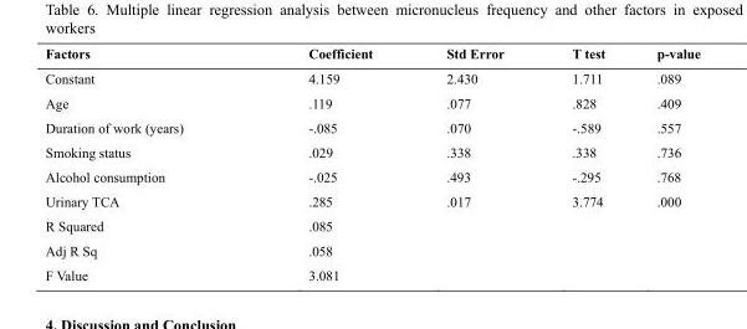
<table><thead><tr><td>Factors</td><td>Coefficient</td><td>Std Error</td><td>T test</td><td>p-value</td></tr></thead><tbody><tr><td>Constant</td><td>4.159</td><td>2.430</td><td>1.711</td><td>.089</td></tr><tr><td>Age</td><td>.119</td><td>.077</td><td>.828</td><td>.409</td></tr><tr><td>Duration of work (years)</td><td>-.085</td><td>.070</td><td>-.589</td><td>.557</td></tr><tr><td>Smoking status</td><td>.029</td><td>.338</td><td>.338</td><td>.736</td></tr><tr><td>Alcohol consumption</td><td>-.025</td><td>.493</td><td>-.295</td><td>.768</td></tr><tr><td>Urinary TCA</td><td>.285</td><td>.017</td><td>3.774</td><td>.000</td></tr><tr><td>R Squared</td><td>.085</td><td></td><td></td><td></td></tr><tr><td>Adj R Sq</td><td>.058</td><td></td><td></td><td></td></tr><tr><td>F Value</td><td>3.081</td><td></td><td></td><td></td></tr></tbody></table>